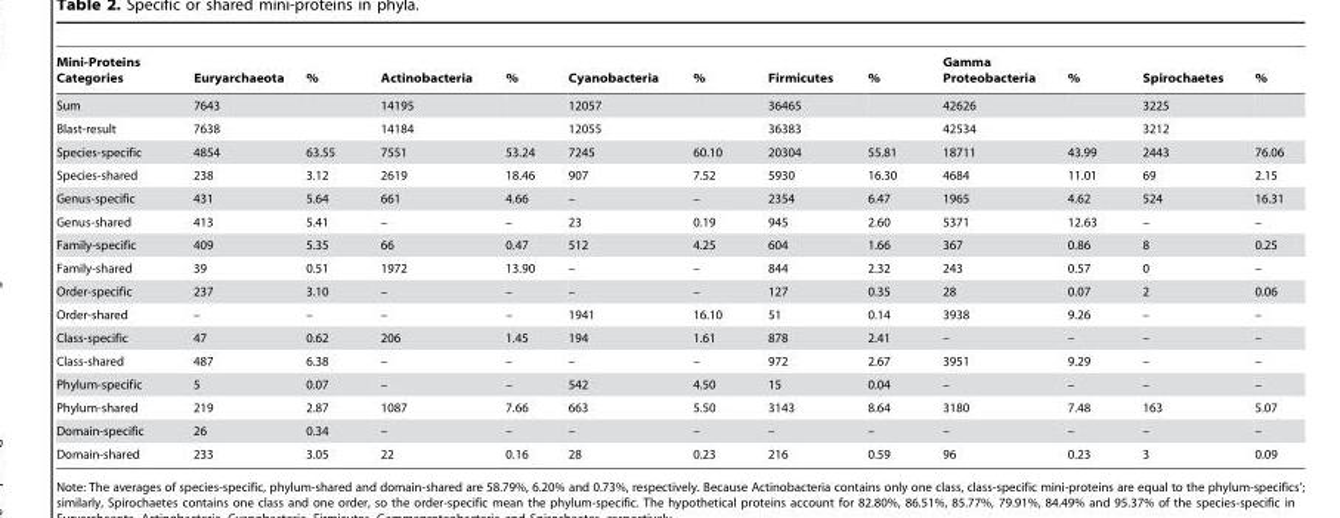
<table><thead><tr><td>Mini-Proteins Categories</td><td>Euryarchaeota</td><td>%</td><td>Actinobacteria</td><td>%</td><td>Cyanobacteria</td><td>%</td><td>Firmicutes</td><td>%</td><td>Gamma Proteobacteria</td><td>%</td><td>Spirochaetes</td><td>%</td></tr></thead><tbody><tr><td>Sum</td><td>7643</td><td></td><td>14195</td><td></td><td>12057</td><td></td><td>36465</td><td></td><td>42626</td><td></td><td>3225</td><td></td></tr><tr><td>Blast-result</td><td>7638</td><td></td><td>14184</td><td></td><td>12055</td><td></td><td>36383</td><td></td><td>42534</td><td></td><td>3212</td><td></td></tr><tr><td>Species-specific</td><td>4854</td><td>63.55</td><td>7551</td><td>53.24</td><td>7245</td><td>60.10</td><td>20304</td><td>55.81</td><td>18711</td><td>43.99</td><td>2443</td><td>76.06</td></tr><tr><td>Species-shared</td><td>238</td><td>3.12</td><td>2619</td><td>18.46</td><td>907</td><td>7.52</td><td>5930</td><td>16.30</td><td>4684</td><td>11.01</td><td>69</td><td>2.15</td></tr><tr><td>Genus-specific</td><td>431</td><td>5.64</td><td>661</td><td>4.66</td><td>–</td><td>–</td><td>2354</td><td>6.47</td><td>1965</td><td>4.62</td><td>524</td><td>16.31</td></tr><tr><td>Genus-shared</td><td>413</td><td>5.41</td><td>–</td><td>–</td><td>23</td><td>0.19</td><td>945</td><td>2.60</td><td>5371</td><td>12.63</td><td>–</td><td>–</td></tr><tr><td>Family-specific</td><td>409</td><td>5.35</td><td>66</td><td>0.47</td><td>512</td><td>4.25</td><td>604</td><td>1.66</td><td>367</td><td>0.86</td><td>8</td><td>0.25</td></tr><tr><td>Family-shared</td><td>39</td><td>0.51</td><td>1972</td><td>13.90</td><td>–</td><td>–</td><td>844</td><td>2.32</td><td>243</td><td>0.57</td><td>0</td><td>–</td></tr><tr><td>Order-specific</td><td>237</td><td>3.10</td><td>–</td><td>–</td><td>–</td><td>–</td><td>127</td><td>0.35</td><td>28</td><td>0.07</td><td>2</td><td>0.06</td></tr><tr><td>Order-shared</td><td>–</td><td>–</td><td>–</td><td>–</td><td>1941</td><td>16.10</td><td>51</td><td>0.14</td><td>3938</td><td>9.26</td><td>–</td><td>–</td></tr><tr><td>Class-specific</td><td>47</td><td>0.62</td><td>206</td><td>1.45</td><td>194</td><td>1.61</td><td>878</td><td>2.41</td><td>–</td><td>–</td><td>–</td><td>–</td></tr><tr><td>Class-shared</td><td>487</td><td>6.38</td><td>–</td><td>–</td><td>–</td><td>–</td><td>972</td><td>2.67</td><td>3951</td><td>9.29</td><td>–</td><td>–</td></tr><tr><td>Phylum-specific</td><td>5</td><td>0.07</td><td>–</td><td>–</td><td>542</td><td>4.50</td><td>15</td><td>0.04</td><td>–</td><td>–</td><td>–</td><td>–</td></tr><tr><td>Phylum-shared</td><td>219</td><td>2.87</td><td>1087</td><td>7.66</td><td>663</td><td>5.50</td><td>3143</td><td>8.64</td><td>3180</td><td>7.48</td><td>163</td><td>5.07</td></tr><tr><td>Domain-specific</td><td>26</td><td>0.34</td><td>–</td><td>–</td><td>–</td><td>–</td><td>–</td><td>–</td><td>–</td><td>–</td><td>–</td><td>–</td></tr><tr><td>Domain-shared</td><td>233</td><td>3.05</td><td>22</td><td>0.16</td><td>28</td><td>0.23</td><td>216</td><td>0.59</td><td>96</td><td>0.23</td><td>3</td><td>0.09</td></tr></tbody></table>